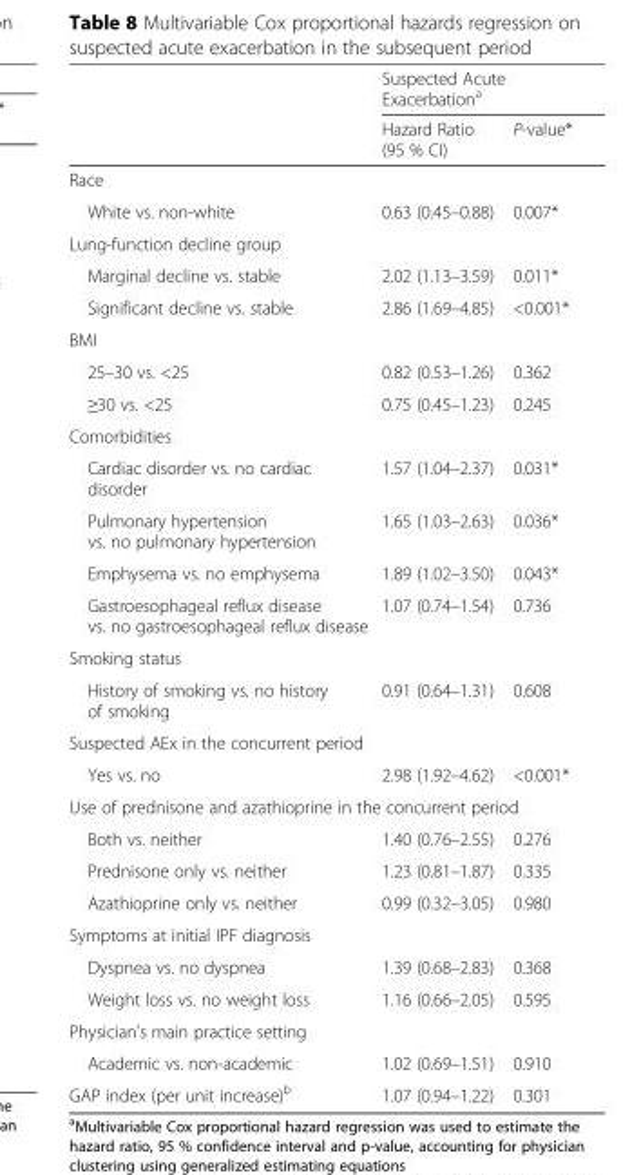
<table><thead><tr><td rowspan="2"></td><td colspan="2">Suspected Acute Exacerbation<sup>a</sup></td></tr><tr><td>Hazard Ratio (95 % CI)</td><td>P-value*</td></tr></thead><tbody><tr><td colspan="3">Race</td></tr><tr><td>White vs. non-white</td><td>0.63 (0.45–0.88)</td><td>0.007*</td></tr><tr><td colspan="3">Lung-function decline group</td></tr><tr><td>Marginal decline vs. stable</td><td>2.02 (1.13–3.59)</td><td>0.011*</td></tr><tr><td>Significant decline vs. stable</td><td>2.86 (1.69–4.85)</td><td>&lt;0.001*</td></tr><tr><td colspan="3">BMI</td></tr><tr><td>25–30 vs. &lt;25</td><td>0.82 (0.53–1.26)</td><td>0.362</td></tr><tr><td>≥30 vs. &lt;25</td><td>0.75 (0.45–1.23)</td><td>0.245</td></tr><tr><td colspan="3">Comorbidities</td></tr><tr><td>Cardiac disorder vs. no cardiac disorder</td><td>1.57 (1.04–2.37)</td><td>0.031*</td></tr><tr><td>Pulmonary hypertension vs. no pulmonary hypertension</td><td>1.65 (1.03–2.63)</td><td>0.036*</td></tr><tr><td>Emphysema vs. no emphysema</td><td>1.89 (1.02–3.50)</td><td>0.043*</td></tr><tr><td>Gastroesophageal reflux disease vs. no gastroesophageal reflux disease</td><td>1.07 (0.74–1.54)</td><td>0.736</td></tr><tr><td colspan="3">Smoking status</td></tr><tr><td>History of smoking vs. no history of smoking</td><td>0.91 (0.64–1.31)</td><td>0.608</td></tr><tr><td colspan="3">Suspected AEx in the concurrent period</td></tr><tr><td>Yes vs. no</td><td>2.98 (1.92–4.62)</td><td>&lt;0.001*</td></tr><tr><td colspan="3">Use of prednisone and azathioprine in the concurrent period</td></tr><tr><td>Both vs. neither</td><td>1.40 (0.76–2.55)</td><td>0.276</td></tr><tr><td>Prednisone only vs. neither</td><td>1.23 (0.81–1.87)</td><td>0.335</td></tr><tr><td>Azathioprine only vs. neither</td><td>0.99 (0.32–3.05)</td><td>0.980</td></tr><tr><td colspan="3">Symptoms at initial IPF diagnosis</td></tr><tr><td>Dyspnea vs. no dyspnea</td><td>1.39 (0.68–2.83)</td><td>0.368</td></tr><tr><td>Weight loss vs. no weight loss</td><td>1.16 (0.66–2.05)</td><td>0.595</td></tr><tr><td colspan="3">Physician&#x27;s main practice setting</td></tr><tr><td>Academic vs. non-academic</td><td>1.02 (0.69–1.51)</td><td>0.910</td></tr><tr><td>GAP index (per unit increase)<sup>b</sup></td><td>1.07 (0.94–1.22)</td><td>0.301</td></tr></tbody></table>